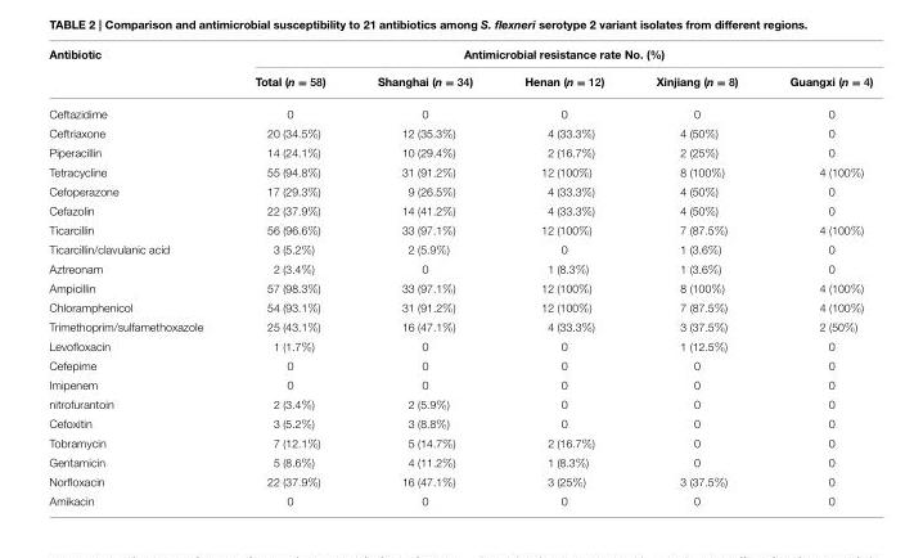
<table><thead><tr><td rowspan="2">Antibiotic</td><td colspan="5">Antimicrobial resistance rate No. (%)</td></tr><tr><td>Total (n = 58)</td><td>Shanghai (n = 34)</td><td>Henan (n = 12)</td><td>Xinjiang (n = 8)</td><td>Guangxi (n = 4)</td></tr></thead><tbody><tr><td>Ceftazidime</td><td>0</td><td>0</td><td>0</td><td>0</td><td>0</td></tr><tr><td>Ceftriaxone</td><td>20 (34.5%)</td><td>12 (35.3%)</td><td>4 (33.3%)</td><td>4 (50%)</td><td>0</td></tr><tr><td>Piperacillin</td><td>14 (24.1%)</td><td>10 (29.4%)</td><td>2 (16.7%)</td><td>2 (25%)</td><td>0</td></tr><tr><td>Tetracycline</td><td>55 (94.8%)</td><td>31 (91.2%)</td><td>12 (100%)</td><td>8 (100%)</td><td>4 (100%)</td></tr><tr><td>Cefoperazone</td><td>17 (29.3%)</td><td>9 (26.5%)</td><td>4 (33.3%)</td><td>4 (50%)</td><td>0</td></tr><tr><td>Cefazolin</td><td>22 (37.9%)</td><td>14 (41.2%)</td><td>4 (33.3%)</td><td>4 (50%)</td><td>0</td></tr><tr><td>Ticarcillin</td><td>56 (96.6%)</td><td>33 (97.1%)</td><td>12 (100%)</td><td>7 (87.5%)</td><td>4 (100%)</td></tr><tr><td>Ticarcillin/clavulanic acid</td><td>3 (5.2%)</td><td>2 (5.9%)</td><td>0</td><td>1 (3.6%)</td><td>0</td></tr><tr><td>Aztreonam</td><td>2 (3.4%)</td><td>0</td><td>1 (8.3%)</td><td>1 (3.6%)</td><td>0</td></tr><tr><td>Ampicillin</td><td>57 (98.3%)</td><td>33 (97.1%)</td><td>12 (100%)</td><td>8 (100%)</td><td>4 (100%)</td></tr><tr><td>Chloramphenicol</td><td>54 (93.1%)</td><td>31 (91.2%)</td><td>12 (100%)</td><td>7 (87.5%)</td><td>4 (100%)</td></tr><tr><td>Trimethoprim/sulfamethoxazole</td><td>25 (43.1%)</td><td>16 (47.1%)</td><td>4 (33.3%)</td><td>3 (37.5%)</td><td>2 (50%)</td></tr><tr><td>Levofloxacin</td><td>1 (1.7%)</td><td>0</td><td>0</td><td>1 (12.5%)</td><td>0</td></tr><tr><td>Cefepime</td><td>0</td><td>0</td><td>0</td><td>0</td><td>0</td></tr><tr><td>Imipenem</td><td>0</td><td>0</td><td>0</td><td>0</td><td>0</td></tr><tr><td>nitrofurantoin</td><td>2 (3.4%)</td><td>2 (5.9%)</td><td>0</td><td>0</td><td>0</td></tr><tr><td>Cefoxitin</td><td>3 (5.2%)</td><td>3 (8.8%)</td><td>0</td><td>0</td><td>0</td></tr><tr><td>Tobramycin</td><td>7 (12.1%)</td><td>5 (14.7%)</td><td>2 (16.7%)</td><td>0</td><td>0</td></tr><tr><td>Gentamicin</td><td>5 (8.6%)</td><td>4 (11.2%)</td><td>1 (8.3%)</td><td>0</td><td>0</td></tr><tr><td>Norfloxacin</td><td>22 (37.9%)</td><td>16 (47.1%)</td><td>3 (25%)</td><td>3 (37.5%)</td><td>0</td></tr><tr><td>Amikacin</td><td>0</td><td>0</td><td>0</td><td>0</td><td>0</td></tr></tbody></table>